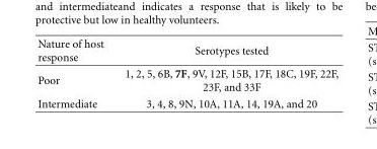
<table><thead><tr><td>Nature of host response</td><td>Serotypes tested</td></tr></thead><tbody><tr><td>Poor</td><td>1, 2, 5, 6B, 7F, 9V, 12F, 15B, 17F, 18C, 19F, 22F, 23F, and 33F</td></tr><tr><td>Intermediate</td><td>3, 4, 8, 9N, 10A, 11A, 14, 19A, and 20</td></tr></tbody></table>